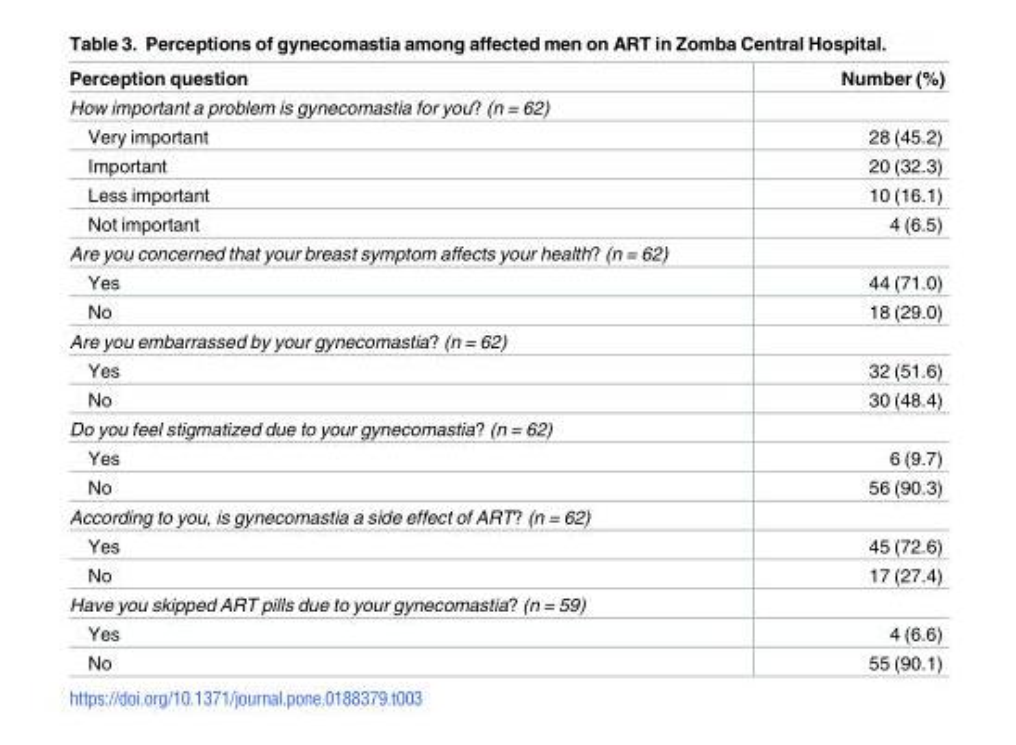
<table><thead><tr><td>Perception question</td><td>Number (%)</td></tr></thead><tbody><tr><td colspan="2">How important a problem is gynecomastia for you? (n = 62)</td></tr><tr><td>Very important</td><td>28 (45.2)</td></tr><tr><td>Important</td><td>20 (32.3)</td></tr><tr><td>Less important</td><td>10 (16.1)</td></tr><tr><td>Not important</td><td>4 (6.5)</td></tr><tr><td colspan="2">Are you concerned that your breast symptom affects your health? (n = 62)</td></tr><tr><td>Yes</td><td>44 (71.0)</td></tr><tr><td>No</td><td>18 (29.0)</td></tr><tr><td colspan="2">Are you embarrassed by your gynecomastia? (n = 62)</td></tr><tr><td>Yes</td><td>32 (51.6)</td></tr><tr><td>No</td><td>30 (48.4)</td></tr><tr><td colspan="2">Do you feel stigmatized due to your gynecomastia? (n = 62)</td></tr><tr><td>Yes</td><td>6 (9.7)</td></tr><tr><td>No</td><td>56 (90.3)</td></tr><tr><td colspan="2">According to you, is gynecomastia a side effect of ART? (n = 62)</td></tr><tr><td>Yes</td><td>45 (72.6)</td></tr><tr><td>No</td><td>17 (27.4)</td></tr><tr><td colspan="2">Have you skipped ART pills due to your gynecomastia? (n = 59)</td></tr><tr><td>Yes</td><td>4 (6.6)</td></tr><tr><td>No</td><td>55 (90.1)</td></tr></tbody></table>